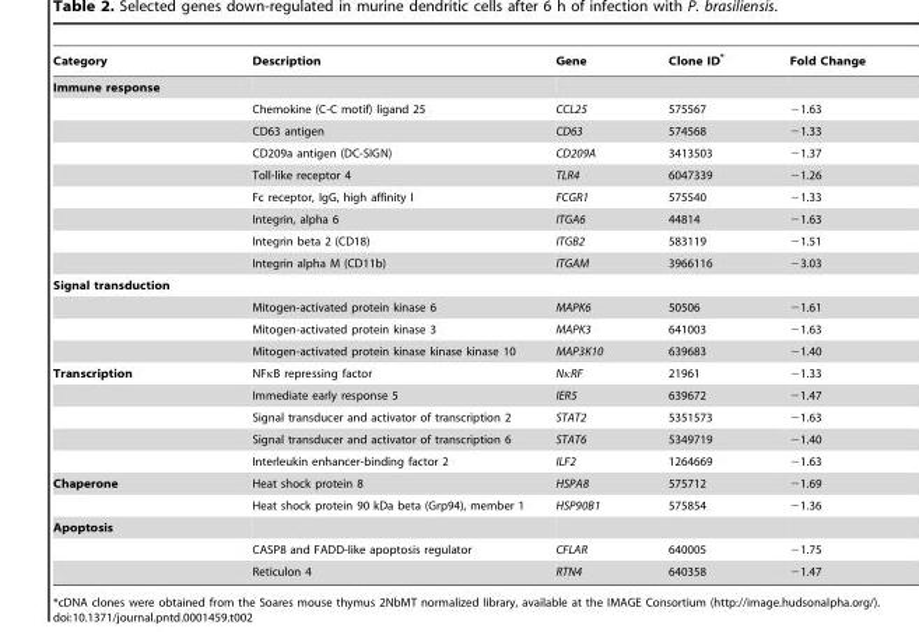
<table><thead><tr><td>Category</td><td>Description</td><td>Gene</td><td>Clone ID*</td><td>Fold Change</td></tr></thead><tbody><tr><td colspan="5">Immune response</td></tr><tr><td></td><td>Chemokine (C-C motif) ligand 25</td><td>CCL25</td><td>575567</td><td>−1.63</td></tr><tr><td></td><td>CD63 antigen</td><td>CD63</td><td>574568</td><td>−1.33</td></tr><tr><td></td><td>CD209a antigen (DC-SIGN)</td><td>CD209A</td><td>3413503</td><td>−1.37</td></tr><tr><td></td><td>Toll-like receptor 4</td><td>TLR4</td><td>6047339</td><td>−1.26</td></tr><tr><td></td><td>Fc receptor, IgG, high affinity I</td><td>FCGR1</td><td>575540</td><td>−1.33</td></tr><tr><td></td><td>Integrin, alpha 6</td><td>ITGA6</td><td>44814</td><td>−1.63</td></tr><tr><td></td><td>Integrin beta 2 (CD18)</td><td>ITGB2</td><td>583119</td><td>−1.51</td></tr><tr><td></td><td>Integrin alpha M (CD11b)</td><td>ITGAM</td><td>3966116</td><td>−3.03</td></tr><tr><td colspan="5">Signal transduction</td></tr><tr><td></td><td>Mitogen-activated protein kinase 6</td><td>MAPK6</td><td>50506</td><td>−1.61</td></tr><tr><td></td><td>Mitogen-activated protein kinase 3</td><td>MAPK3</td><td>641003</td><td>−1.63</td></tr><tr><td></td><td>Mitogen-activated protein kinase kinase kinase 10</td><td>MAP3K10</td><td>639683</td><td>−1.40</td></tr><tr><td rowspan="5">Transcription</td><td>NFκB repressing factor</td><td>NκRF</td><td>21961</td><td>−1.33</td></tr><tr><td>Immediate early response 5</td><td>IER5</td><td>639672</td><td>−1.47</td></tr><tr><td>Signal transducer and activator of transcription 2</td><td>STAT2</td><td>5351573</td><td>−1.63</td></tr><tr><td>Signal transducer and activator of transcription 6</td><td>STAT6</td><td>5349719</td><td>−1.40</td></tr><tr><td>Interleukin enhancer-binding factor 2</td><td>ILF2</td><td>1264669</td><td>−1.63</td></tr><tr><td rowspan="2">Chaperone</td><td>Heat shock protein 8</td><td>HSPA8</td><td>575712</td><td>−1.69</td></tr><tr><td>Heat shock protein 90 kDa beta (Grp94), member 1</td><td>HSP90B1</td><td>575854</td><td>−1.36</td></tr><tr><td colspan="5">Apoptosis</td></tr><tr><td></td><td>CASP8 and FADD-like apoptosis regulator</td><td>CFLAR</td><td>640005</td><td>−1.75</td></tr><tr><td></td><td>Reticulon 4</td><td>RTN4</td><td>640358</td><td>−1.47</td></tr></tbody></table>